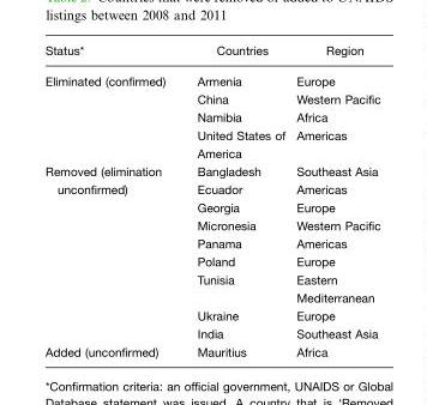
<table><thead><tr><td>Status*</td><td>Countries</td><td>Region</td></tr></thead><tbody><tr><td rowspan="4">Eliminated (confirmed)</td><td>Armenia</td><td>Europe</td></tr><tr><td>China</td><td>Western Pacific</td></tr><tr><td>Namibia</td><td>Africa</td></tr><tr><td>United States of America</td><td>Americas</td></tr><tr><td rowspan="9">Removed (elimination unconfirmed)</td><td>Bangladesh</td><td>Southeast Asia</td></tr><tr><td>Ecuador</td><td>Americas</td></tr><tr><td>Georgia</td><td>Europe</td></tr><tr><td>Micronesia</td><td>Western Pacific</td></tr><tr><td>Panama</td><td>Americas</td></tr><tr><td>Poland</td><td>Europe</td></tr><tr><td>Tunisia</td><td>Eastern Mediterranean</td></tr><tr><td>Ukraine</td><td>Europe</td></tr><tr><td>India</td><td>Southeast Asia</td></tr><tr><td>Added (unconfirmed)</td><td>Mauritius</td><td>Africa</td></tr></tbody></table>